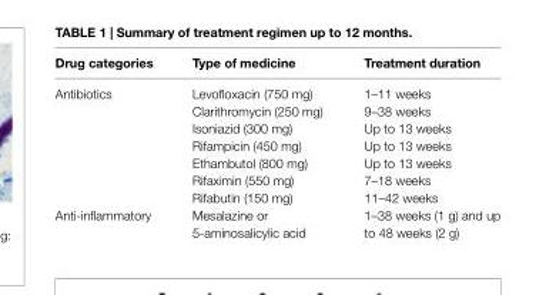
<table><thead><tr><td>Drug categories</td><td>type of medicine</td><td>treatment duration</td></tr></thead><tbody><tr><td rowspan="7">Antibiotics</td><td>Levofloxacin (750 mg)</td><td>1–11 weeks</td></tr><tr><td>Clarithromycin (250 mg)</td><td>9–38 weeks</td></tr><tr><td>Isoniazid (300 mg)</td><td>Up to 13 weeks</td></tr><tr><td>Rifampicin (450 mg)</td><td>Up to 13 weeks</td></tr><tr><td>Ethambutol (800 mg)</td><td>Up to 13 weeks</td></tr><tr><td>Rifaximin (550 mg)</td><td>7–18 weeks</td></tr><tr><td>Rifabutin (150 mg)</td><td>11–42 weeks</td></tr><tr><td>Anti-inflammatory</td><td>Mesalazine or 5-aminosalicylic acid</td><td>1–38 weeks (1 g) and up to 48 weeks (2 g)</td></tr></tbody></table>